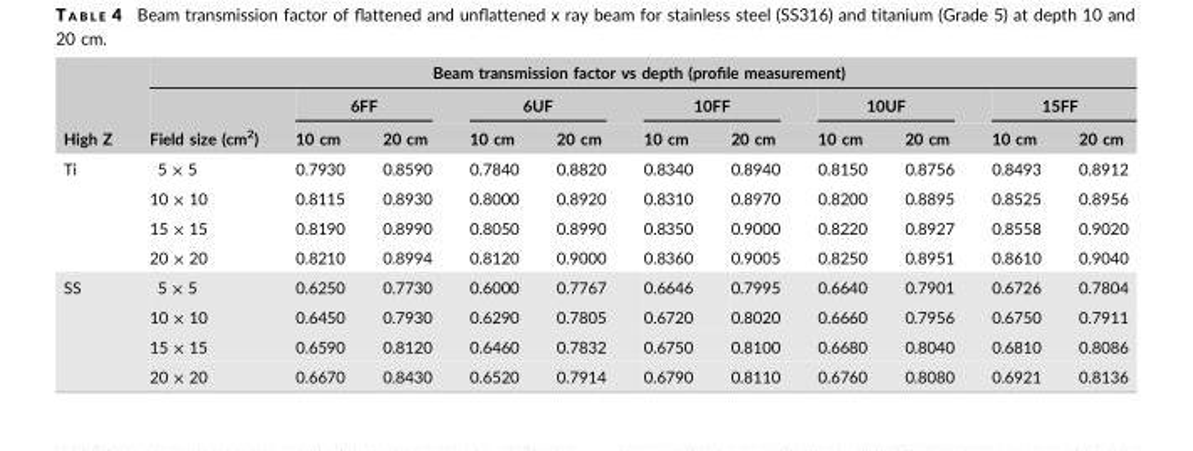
<table><thead><tr><td rowspan="3">High Z</td><td colspan="11">Beam transmission factor vs depth (profile measurement)</td></tr><tr><td rowspan="2">Field size (cm<sup>2</sup>)</td><td colspan="2">6FF</td><td colspan="2">6UF</td><td colspan="2">10FF</td><td colspan="2">10UF</td><td colspan="2">15FF</td></tr><tr><td>10 cm</td><td>20 cm</td><td>10 cm</td><td>20 cm</td><td>10 cm</td><td>20 cm</td><td>10 cm</td><td>20 cm</td><td>10 cm</td><td>20 cm</td></tr></thead><tbody><tr><td rowspan="4">Ti</td><td>5 × 5</td><td>0.7930</td><td>0.8590</td><td>0.7840</td><td>0.8820</td><td>0.8340</td><td>0.8940</td><td>0.8150</td><td>0.8756</td><td>0.8493</td><td>0.8912</td></tr><tr><td>10 × 10</td><td>0.8115</td><td>0.8930</td><td>0.8000</td><td>0.8920</td><td>0.8310</td><td>0.8970</td><td>0.8200</td><td>0.8895</td><td>0.8525</td><td>0.8956</td></tr><tr><td>15 × 15</td><td>0.8190</td><td>0.8990</td><td>0.8050</td><td>0.8990</td><td>0.8350</td><td>0.9000</td><td>0.8220</td><td>0.8927</td><td>0.8558</td><td>0.9020</td></tr><tr><td>20 × 20</td><td>0.8210</td><td>0.8994</td><td>0.8120</td><td>0.9000</td><td>0.8360</td><td>0.9005</td><td>0.8250</td><td>0.8951</td><td>0.8610</td><td>0.9040</td></tr><tr><td rowspan="4">SS</td><td>5 × 5</td><td>0.6250</td><td>0.7730</td><td>0.6000</td><td>0.7767</td><td>0.6646</td><td>0.7995</td><td>0.6640</td><td>0.7901</td><td>0.6726</td><td>0.7804</td></tr><tr><td>10 × 10</td><td>0.6450</td><td>0.7930</td><td>0.6290</td><td>0.7805</td><td>0.6720</td><td>0.8020</td><td>0.6660</td><td>0.7956</td><td>0.6750</td><td>0.7911</td></tr><tr><td>15 × 15</td><td>0.6590</td><td>0.8120</td><td>0.6460</td><td>0.7832</td><td>0.6750</td><td>0.8100</td><td>0.6680</td><td>0.8040</td><td>0.6810</td><td>0.8086</td></tr><tr><td>20 × 20</td><td>0.6670</td><td>0.8430</td><td>0.6520</td><td>0.7914</td><td>0.6790</td><td>0.8110</td><td>0.6760</td><td>0.8080</td><td>0.6921</td><td>0.8136</td></tr></tbody></table>